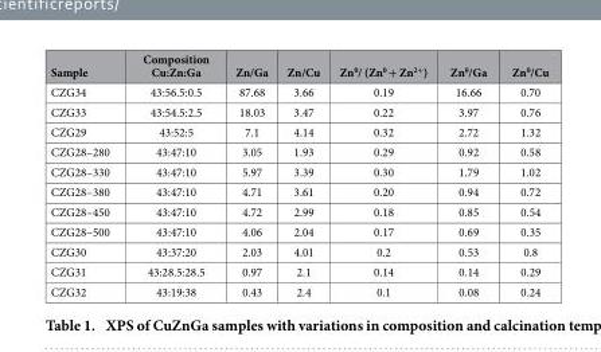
<table><thead><tr><td>Sample</td><td>Composition Cu:Zn:Ga</td><td>Zn/Ga</td><td>Zn/Cu</td><td>Zn<sup>0</sup>/ (Zn<sup>0</sup> + Zn<sup>2+</sup>)</td><td>Zn<sup>0</sup>/Ga</td><td>Zn<sup>0</sup>/Cu</td></tr></thead><tbody><tr><td>CZG34</td><td>43:56.5:0.5</td><td>87.68</td><td>3.66</td><td>0.19</td><td>16.66</td><td>0.70</td></tr><tr><td>CZG33</td><td>43:54.5:2.5</td><td>18.03</td><td>3.47</td><td>0.22</td><td>3.97</td><td>0.76</td></tr><tr><td>CZG29</td><td>43:52:5</td><td>7.1</td><td>4.14</td><td>0.32</td><td>2.72</td><td>1.32</td></tr><tr><td>CZG28–280</td><td>43:47:10</td><td>3.05</td><td>1.93</td><td>0.29</td><td>0.92</td><td>0.58</td></tr><tr><td>CZG28–330</td><td>43:47:10</td><td>5.97</td><td>3.39</td><td>0.30</td><td>1.79</td><td>1.02</td></tr><tr><td>CZG28–380</td><td>43:47:10</td><td>4.71</td><td>3.61</td><td>0.20</td><td>0.94</td><td>0.72</td></tr><tr><td>CZG28–450</td><td>43:47:10</td><td>4.72</td><td>2.99</td><td>0.18</td><td>0.85</td><td>0.54</td></tr><tr><td>CZG28–500</td><td>43:47:10</td><td>4.06</td><td>2.04</td><td>0.17</td><td>0.69</td><td>0.35</td></tr><tr><td>CZG30</td><td>43:37:20</td><td>2.03</td><td>4.01</td><td>0.2</td><td>0.53</td><td>0.8</td></tr><tr><td>CZG31</td><td>43:28.5:28.5</td><td>0.97</td><td>2.1</td><td>0.14</td><td>0.14</td><td>0.29</td></tr><tr><td>CZG32</td><td>43:19:38</td><td>0.43</td><td>2.4</td><td>0.1</td><td>0.08</td><td>0.24</td></tr></tbody></table>